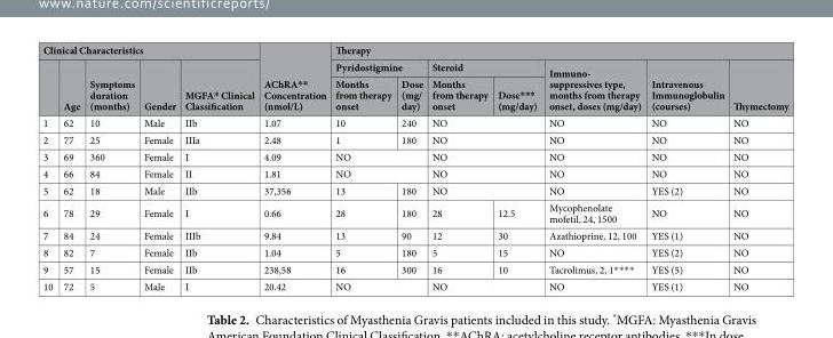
<table><thead><tr><td colspan="5">Clinical Characteristics</td><td rowspan="3">AChRA** Concentration (nmol/L)</td><td colspan="7">Therapy</td></tr><tr><td rowspan="2"></td><td rowspan="2">Age</td><td rowspan="2">Symptoms duration (months)</td><td rowspan="2">Gender</td><td rowspan="2">MGFA* Clinical Classification</td><td colspan="2">Pyridostigmine</td><td colspan="2">Steroid</td><td rowspan="2">Immuno- suppressives type, months from therapy onset, doses (mg/day)</td><td rowspan="2">Intravenous Immunoglobulin (courses)</td><td rowspan="2">Thymectomy</td></tr><tr><td>Months from therapy onset</td><td>Dose (mg/ day)</td><td>Months from therapy onset</td><td>Dose*** (mg/day)</td></tr></thead><tbody><tr><td>1</td><td>62</td><td>10</td><td>Male</td><td>IIb</td><td>1.07</td><td>10</td><td>240</td><td colspan="2">NO</td><td>NO</td><td>NO</td><td>NO</td></tr><tr><td>2</td><td>77</td><td>25</td><td>Female</td><td>IIIa</td><td>2.48</td><td>1</td><td>180</td><td colspan="2">NO</td><td>NO</td><td>NO</td><td>NO</td></tr><tr><td>3</td><td>69</td><td>360</td><td>Female</td><td>I</td><td>4.09</td><td colspan="2">NO</td><td colspan="2">NO</td><td>NO</td><td>NO</td><td>NO</td></tr><tr><td>4</td><td>66</td><td>84</td><td>Female</td><td>II</td><td>1.81</td><td colspan="2">NO</td><td colspan="2">NO</td><td>NO</td><td>NO</td><td>NO</td></tr><tr><td>5</td><td>62</td><td>18</td><td>Male</td><td>IIb</td><td>37,356</td><td>13</td><td>180</td><td colspan="2">NO</td><td>NO</td><td>YES (2)</td><td>NO</td></tr><tr><td>6</td><td>78</td><td>29</td><td>Female</td><td>I</td><td>0.66</td><td>28</td><td>180</td><td>28</td><td>12.5</td><td>Mycophenolate mofetil, 24, 1500</td><td>NO</td><td>NO</td></tr><tr><td>7</td><td>84</td><td>24</td><td>Female</td><td>IIIb</td><td>9.84</td><td>13</td><td>90</td><td>12</td><td>30</td><td>Azathioprine, 12, 100</td><td>YES (1)</td><td>NO</td></tr><tr><td>8</td><td>82</td><td>7</td><td>Female</td><td>IIb</td><td>1.04</td><td>5</td><td>180</td><td>5</td><td>15</td><td>NO</td><td>YES (2)</td><td>NO</td></tr><tr><td>9</td><td>57</td><td>15</td><td>Female</td><td>IIb</td><td>238,58</td><td>16</td><td>300</td><td>16</td><td>10</td><td>Tacrolimus, 2, 1****</td><td>YES (5)</td><td>NO</td></tr><tr><td>10</td><td>72</td><td>5</td><td>Male</td><td>I</td><td>20.42</td><td colspan="2">NO</td><td colspan="2">NO</td><td>NO</td><td>YES (1)</td><td>NO</td></tr></tbody></table>